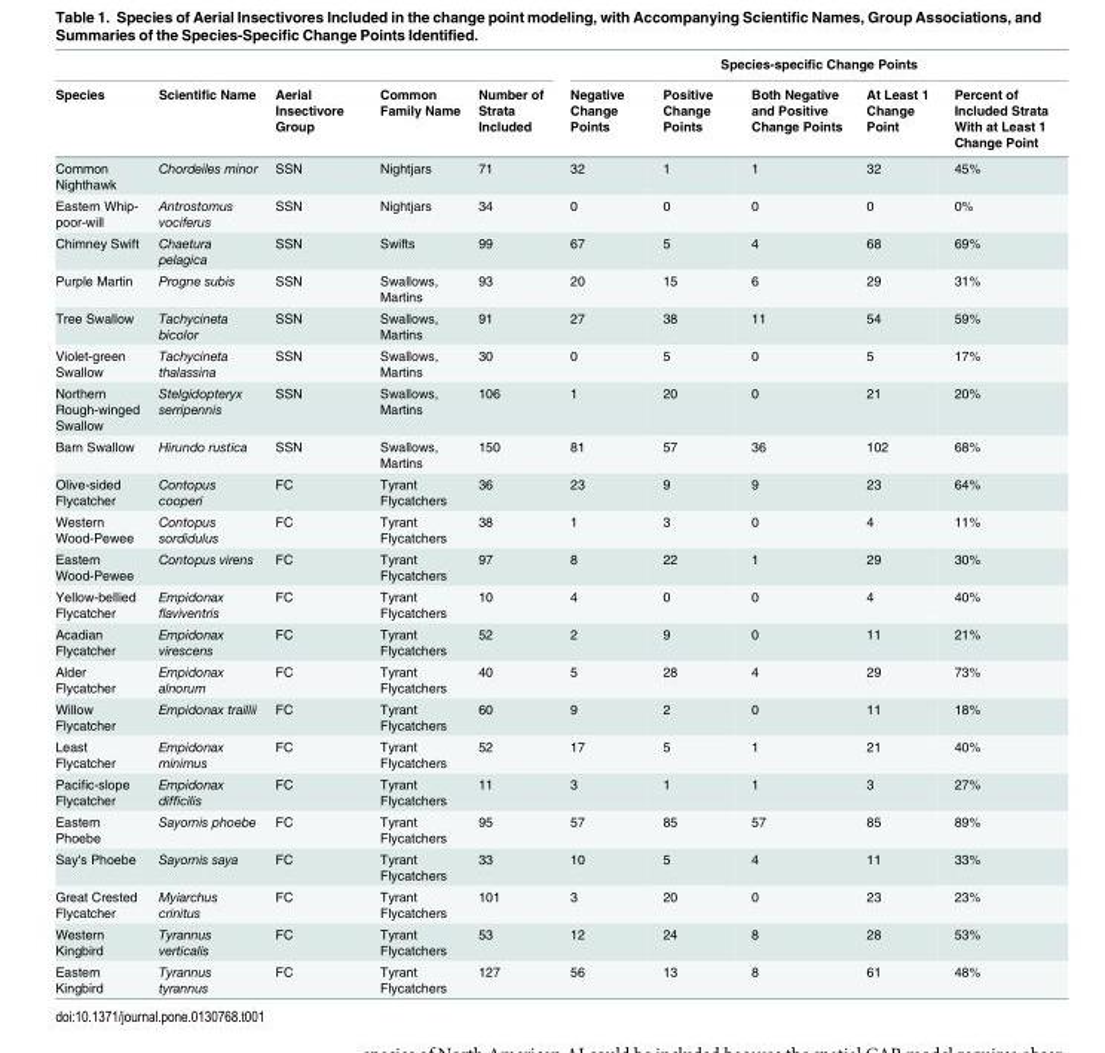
<table><thead><tr><td rowspan="2">Species</td><td rowspan="2">Scientific Name</td><td rowspan="2">Aerial Insectivore Group</td><td rowspan="2">Common Family Name</td><td rowspan="2">Number of Strata Included</td><td colspan="5">Species-specific Change Points</td></tr><tr><td>Negative Change Points</td><td>Positive Change Points</td><td>Both Negative and Positive Change Points</td><td>At Least 1 Change Point</td><td>Percent of Included Strata With at Least 1 Change Point</td></tr></thead><tbody><tr><td>Common Nighthawk</td><td>Chordeiles minor</td><td>SSN</td><td>Nightjars</td><td>71</td><td>32</td><td>1</td><td>1</td><td>32</td><td>45%</td></tr><tr><td>Eastern Whip- poor-will</td><td>Antrostomus vociferus</td><td>SSN</td><td>Nightjars</td><td>34</td><td>0</td><td>0</td><td>0</td><td>0</td><td>0%</td></tr><tr><td>Chimney Swift</td><td>Chaetura pelagica</td><td>SSN</td><td>Swifts</td><td>99</td><td>67</td><td>5</td><td>4</td><td>68</td><td>69%</td></tr><tr><td>Purple Martin</td><td>Progne subis</td><td>SSN</td><td>Swallows, Martins</td><td>93</td><td>20</td><td>15</td><td>6</td><td>29</td><td>31%</td></tr><tr><td>Tree Swallow</td><td>Tachycineta bicolor</td><td>SSN</td><td>Swallows, Martins</td><td>91</td><td>27</td><td>38</td><td>11</td><td>54</td><td>59%</td></tr><tr><td>Violet-green Swallow</td><td>Tachycineta thalassina</td><td>SSN</td><td>Swallows, Martins</td><td>30</td><td>0</td><td>5</td><td>0</td><td>5</td><td>17%</td></tr><tr><td>Northern Rough-winged Swallow</td><td>Stelgidopteryx serripennis</td><td>SSN</td><td>Swallows, Martins</td><td>106</td><td>1</td><td>20</td><td>0</td><td>21</td><td>20%</td></tr><tr><td>Barn Swallow</td><td>Hirundo rustica</td><td>SSN</td><td>Swallows, Martins</td><td>150</td><td>81</td><td>57</td><td>36</td><td>102</td><td>68%</td></tr><tr><td>Olive-sided Flycatcher</td><td>Contopus cooperi</td><td>FC</td><td>Tyrant Flycatchers</td><td>36</td><td>23</td><td>9</td><td>9</td><td>23</td><td>64%</td></tr><tr><td>Western Wood-Pewee</td><td>Contopus sordidulus</td><td>FC</td><td>Tyrant Flycatchers</td><td>38</td><td>1</td><td>3</td><td>0</td><td>4</td><td>11%</td></tr><tr><td>Eastern Wood-Pewee</td><td>Contopus virens</td><td>FC</td><td>Tyrant Flycatchers</td><td>97</td><td>8</td><td>22</td><td>1</td><td>29</td><td>30%</td></tr><tr><td>Yellow-bellied Flycatcher</td><td>Empidonax flaviventris</td><td>FC</td><td>Tyrant Flycatchers</td><td>10</td><td>4</td><td>0</td><td>0</td><td>4</td><td>40%</td></tr><tr><td>Acadian Flycatcher</td><td>Empidonax virescens</td><td>FC</td><td>Tyrant Flycatchers</td><td>52</td><td>2</td><td>9</td><td>0</td><td>11</td><td>21%</td></tr><tr><td>Alder Flycatcher</td><td>Empidonax alnorum</td><td>FC</td><td>Tyrant Flycatchers</td><td>40</td><td>5</td><td>28</td><td>4</td><td>29</td><td>73%</td></tr><tr><td>Willow Flycatcher</td><td>Empidonax traillii</td><td>FC</td><td>Tyrant Flycatchers</td><td>60</td><td>9</td><td>2</td><td>0</td><td>11</td><td>18%</td></tr><tr><td>Least Flycatcher</td><td>Empidonax minimus</td><td>FC</td><td>Tyrant Flycatchers</td><td>52</td><td>17</td><td>5</td><td>1</td><td>21</td><td>40%</td></tr><tr><td>Pacific-slope Flycatcher</td><td>Empidonax difficilis</td><td>FC</td><td>Tyrant Flycatchers</td><td>11</td><td>3</td><td>1</td><td>1</td><td>3</td><td>27%</td></tr><tr><td>Eastern Phoebe</td><td>Sayornis phoebe</td><td>FC</td><td>Tyrant Flycatchers</td><td>95</td><td>57</td><td>85</td><td>57</td><td>85</td><td>89%</td></tr><tr><td>Say&#x27;s Phoebe</td><td>Sayornis saya</td><td>FC</td><td>Tyrant Flycatchers</td><td>33</td><td>10</td><td>5</td><td>4</td><td>11</td><td>33%</td></tr><tr><td>Great Crested Flycatcher</td><td>Myiarchus crinitus</td><td>FC</td><td>Tyrant Flycatchers</td><td>101</td><td>3</td><td>20</td><td>0</td><td>23</td><td>23%</td></tr><tr><td>Western Kingbird</td><td>Tyrannus verticalis</td><td>FC</td><td>Tyrant Flycatchers</td><td>53</td><td>12</td><td>24</td><td>8</td><td>28</td><td>53%</td></tr><tr><td>Eastern Kingbird</td><td>Tyrannus tyrannus</td><td>FC</td><td>Tyrant Flycatchers</td><td>127</td><td>56</td><td>13</td><td>8</td><td>61</td><td>48%</td></tr></tbody></table>